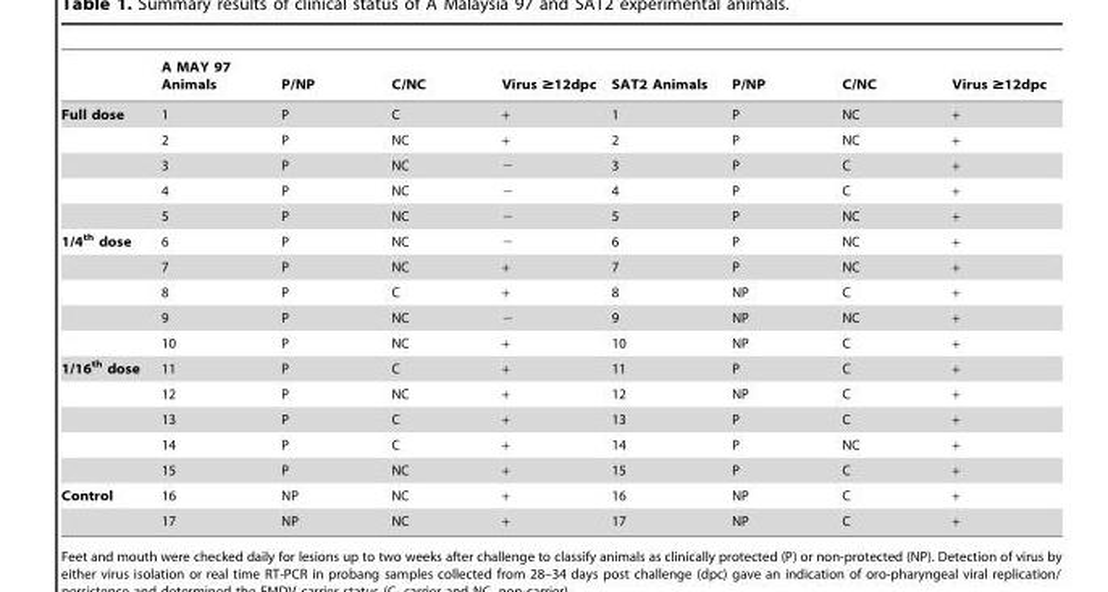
<table><thead><tr><td></td><td>A MAY 97 Animals</td><td>P/NP</td><td>C/NC</td><td>Virus ≥12dpc</td><td>SAT2 Animals</td><td>P/NP</td><td>C/NC</td><td>Virus ≥12dpc</td></tr></thead><tbody><tr><td rowspan="5">Full dose</td><td>1</td><td>P</td><td>C</td><td>+</td><td>1</td><td>P</td><td>NC</td><td>+</td></tr><tr><td>2</td><td>P</td><td>NC</td><td>+</td><td>2</td><td>P</td><td>NC</td><td>+</td></tr><tr><td>3</td><td>P</td><td>NC</td><td>−</td><td>3</td><td>P</td><td>C</td><td>+</td></tr><tr><td>4</td><td>P</td><td>NC</td><td>−</td><td>4</td><td>P</td><td>C</td><td>+</td></tr><tr><td>5</td><td>P</td><td>NC</td><td>−</td><td>5</td><td>P</td><td>NC</td><td>+</td></tr><tr><td rowspan="5">1/4<sup>th</sup> dose</td><td>6</td><td>P</td><td>NC</td><td>−</td><td>6</td><td>P</td><td>NC</td><td>+</td></tr><tr><td>7</td><td>P</td><td>NC</td><td>+</td><td>7</td><td>P</td><td>NC</td><td>+</td></tr><tr><td>8</td><td>P</td><td>C</td><td>+</td><td>8</td><td>NP</td><td>C</td><td>+</td></tr><tr><td>9</td><td>P</td><td>NC</td><td>−</td><td>9</td><td>NP</td><td>NC</td><td>+</td></tr><tr><td>10</td><td>P</td><td>NC</td><td>+</td><td>10</td><td>NP</td><td>C</td><td>+</td></tr><tr><td rowspan="5">1/16<sup>th</sup> dose</td><td>11</td><td>P</td><td>C</td><td>+</td><td>11</td><td>P</td><td>C</td><td>+</td></tr><tr><td>12</td><td>P</td><td>NC</td><td>+</td><td>12</td><td>NP</td><td>C</td><td>+</td></tr><tr><td>13</td><td>P</td><td>C</td><td>+</td><td>13</td><td>P</td><td>C</td><td>+</td></tr><tr><td>14</td><td>P</td><td>C</td><td>+</td><td>14</td><td>P</td><td>NC</td><td>+</td></tr><tr><td>15</td><td>P</td><td>NC</td><td>+</td><td>15</td><td>P</td><td>C</td><td>+</td></tr><tr><td rowspan="2">Control</td><td>16</td><td>NP</td><td>NC</td><td>+</td><td>16</td><td>NP</td><td>C</td><td>+</td></tr><tr><td>17</td><td>NP</td><td>NC</td><td>+</td><td>17</td><td>NP</td><td>C</td><td>+</td></tr></tbody></table>